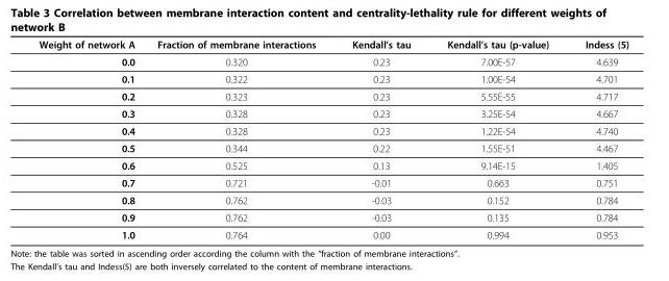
<table><thead><tr><td>Weight of network A</td><td>Fraction of membrane interactions</td><td>Kendall’s tau</td><td>Kendall’s tau (p-value)</td><td>Indess (5)</td></tr></thead><tbody><tr><td>0.0</td><td>0.320</td><td>0.23</td><td>7.00E-57</td><td>4.639</td></tr><tr><td>0.1</td><td>0.322</td><td>0.23</td><td>1.00E-54</td><td>4.701</td></tr><tr><td>0.2</td><td>0.323</td><td>0.23</td><td>5.55E-55</td><td>4.717</td></tr><tr><td>0.3</td><td>0.328</td><td>0.23</td><td>3.25E-54</td><td>4.667</td></tr><tr><td>0.4</td><td>0.328</td><td>0.23</td><td>1.22E-54</td><td>4.740</td></tr><tr><td>0.5</td><td>0.344</td><td>0.22</td><td>1.55E-51</td><td>4.467</td></tr><tr><td>0.6</td><td>0.525</td><td>0.13</td><td>9.14E-15</td><td>1.405</td></tr><tr><td>0.7</td><td>0.721</td><td>-0.01</td><td>0.663</td><td>0.751</td></tr><tr><td>0.8</td><td>0.762</td><td>-0.03</td><td>0.152</td><td>0.784</td></tr><tr><td>0.9</td><td>0.762</td><td>-0.03</td><td>0.135</td><td>0.784</td></tr><tr><td>1.0</td><td>0.764</td><td>0.00</td><td>0.994</td><td>0.953</td></tr></tbody></table>